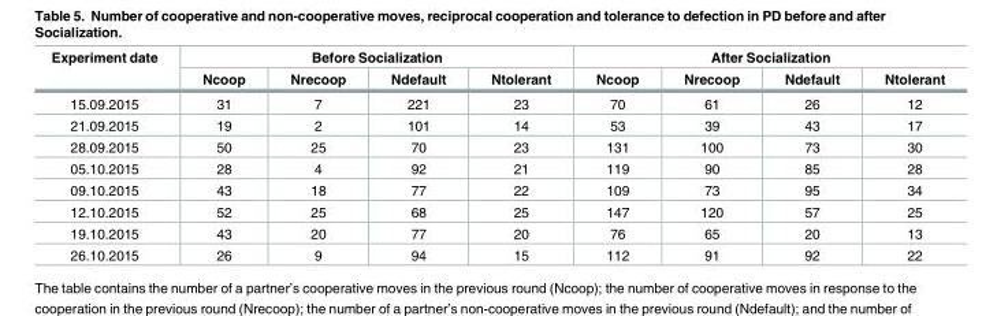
<table><thead><tr><td rowspan="2">Experiment date</td><td colspan="4">Before Socialization</td><td colspan="4">After Socialization</td></tr><tr><td>Ncoop</td><td>Nrecoop</td><td>Ndefault</td><td>Ntolerant</td><td>Ncoop</td><td>Nrecoop</td><td>Ndefault</td><td>Ntolerant</td></tr></thead><tbody><tr><td>15.09.2015</td><td>31</td><td>7</td><td>221</td><td>23</td><td>70</td><td>61</td><td>26</td><td>12</td></tr><tr><td>21.09.2015</td><td>19</td><td>2</td><td>101</td><td>14</td><td>53</td><td>39</td><td>43</td><td>17</td></tr><tr><td>28.09.2015</td><td>50</td><td>25</td><td>70</td><td>23</td><td>131</td><td>100</td><td>73</td><td>30</td></tr><tr><td>05.10.2015</td><td>28</td><td>4</td><td>92</td><td>21</td><td>119</td><td>90</td><td>85</td><td>28</td></tr><tr><td>09.10.2015</td><td>43</td><td>18</td><td>77</td><td>22</td><td>109</td><td>73</td><td>95</td><td>34</td></tr><tr><td>12.10.2015</td><td>52</td><td>25</td><td>68</td><td>25</td><td>147</td><td>120</td><td>57</td><td>25</td></tr><tr><td>19.10.2015</td><td>43</td><td>20</td><td>77</td><td>20</td><td>76</td><td>65</td><td>20</td><td>13</td></tr><tr><td>26.10.2015</td><td>26</td><td>9</td><td>94</td><td>15</td><td>112</td><td>91</td><td>92</td><td>22</td></tr></tbody></table>